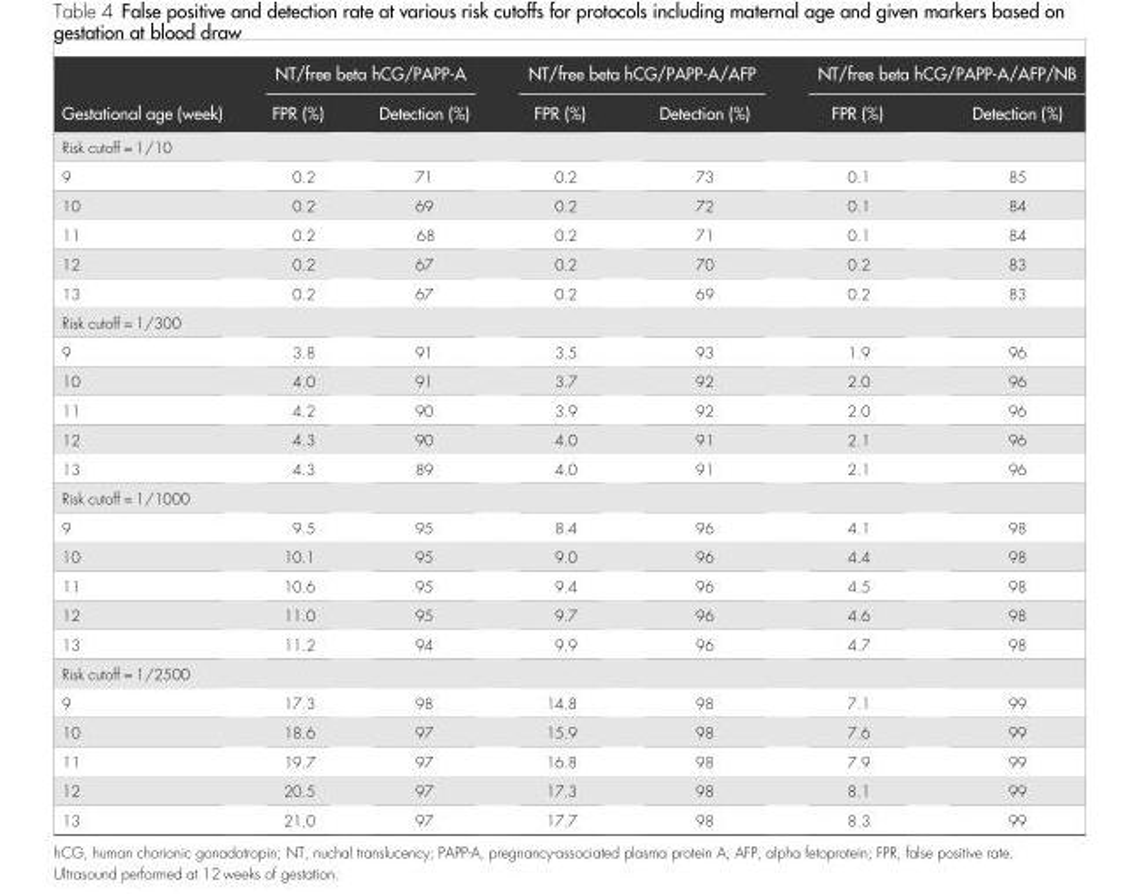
<table><thead><tr><td rowspan="2">Gestational age (week)</td><td colspan="2">NT/free beta hCG/PAPP-A</td><td colspan="2">NT/free beta hCG/PAPP-A/AFP</td><td colspan="2">NT/free beta hCG/PAPP-A/AFP/NB</td></tr><tr><td>FPR (%)</td><td>Detection (%)</td><td>FPR (%)</td><td>Detection (%)</td><td>FPR (%)</td><td>Detection (%)</td></tr></thead><tbody><tr><td colspan="7">Risk cutoff = 1/10</td></tr><tr><td>9</td><td>0.2</td><td>71</td><td>0.2</td><td>73</td><td>0.1</td><td>85</td></tr><tr><td>10</td><td>0.2</td><td>69</td><td>0.2</td><td>72</td><td>0.1</td><td>84</td></tr><tr><td>11</td><td>0.2</td><td>68</td><td>0.2</td><td>71</td><td>0.1</td><td>84</td></tr><tr><td>12</td><td>0.2</td><td>67</td><td>0.2</td><td>70</td><td>0.2</td><td>83</td></tr><tr><td>13</td><td>0.2</td><td>67</td><td>0.2</td><td>69</td><td>0.2</td><td>83</td></tr><tr><td colspan="7">Risk cutoff = 1/300</td></tr><tr><td>9</td><td>3.8</td><td>91</td><td>3.5</td><td>93</td><td>1.9</td><td>96</td></tr><tr><td>10</td><td>4.0</td><td>91</td><td>3.7</td><td>92</td><td>2.0</td><td>96</td></tr><tr><td>11</td><td>4.2</td><td>90</td><td>3.9</td><td>92</td><td>2.0</td><td>96</td></tr><tr><td>12</td><td>4.3</td><td>90</td><td>4.0</td><td>91</td><td>2.1</td><td>96</td></tr><tr><td>13</td><td>4.3</td><td>89</td><td>4.0</td><td>91</td><td>2.1</td><td>96</td></tr><tr><td colspan="7">Risk cutoff = 1/1000</td></tr><tr><td>9</td><td>9.5</td><td>95</td><td>8.4</td><td>96</td><td>4.1</td><td>98</td></tr><tr><td>10</td><td>10.1</td><td>95</td><td>9.0</td><td>96</td><td>4.4</td><td>98</td></tr><tr><td>11</td><td>10.6</td><td>95</td><td>9.4</td><td>96</td><td>4.5</td><td>98</td></tr><tr><td>12</td><td>11.0</td><td>95</td><td>9.7</td><td>96</td><td>4.6</td><td>98</td></tr><tr><td>13</td><td>11.2</td><td>94</td><td>9.9</td><td>96</td><td>4.7</td><td>98</td></tr><tr><td colspan="7">Risk cutoff = 1/2500</td></tr><tr><td>9</td><td>17.3</td><td>98</td><td>14.8</td><td>98</td><td>7.1</td><td>99</td></tr><tr><td>10</td><td>18.6</td><td>97</td><td>15.9</td><td>98</td><td>7.6</td><td>99</td></tr><tr><td>11</td><td>19.7</td><td>97</td><td>16.8</td><td>98</td><td>7.9</td><td>99</td></tr><tr><td>12</td><td>20.5</td><td>97</td><td>17.3</td><td>98</td><td>8.1</td><td>99</td></tr><tr><td>13</td><td>21.0</td><td>97</td><td>17.7</td><td>98</td><td>8.3</td><td>99</td></tr></tbody></table>